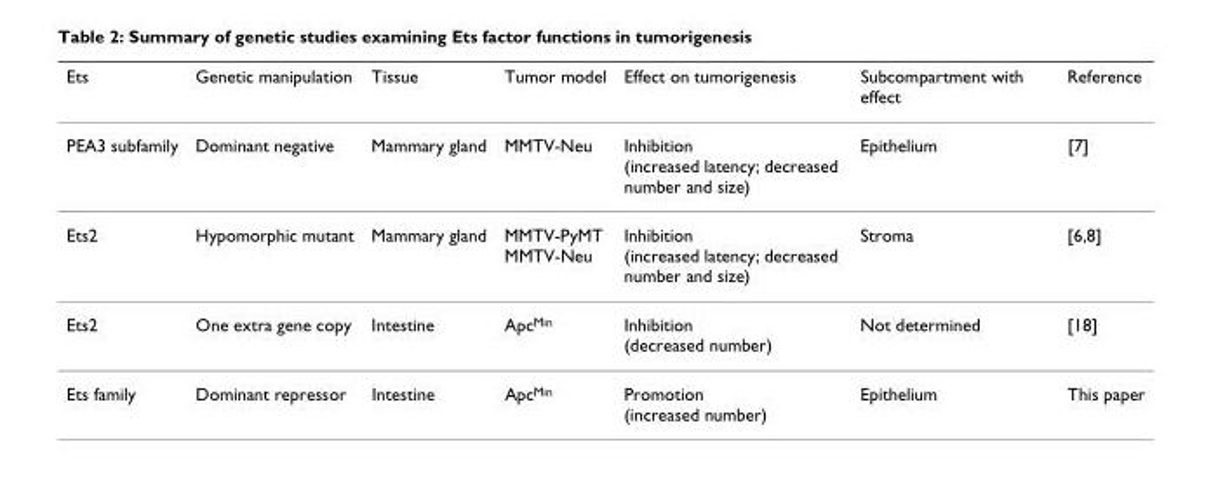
<table><thead><tr><td>Ets</td><td>Genetic manipulation</td><td>Tissue</td><td>Tumor model</td><td>Effect on tumorigenesis</td><td>Subcompartment with effect</td><td>Reference</td></tr></thead><tbody><tr><td>PEA3 subfamily</td><td>Dominant negative</td><td>Mammary gland</td><td>MMTV-Neu</td><td>Inhibition (increased latency; decreased number and size)</td><td>Epithelium</td><td>[7]</td></tr><tr><td>Ets2</td><td>Hypomorphic mutant</td><td>Mammary gland</td><td>MMTV-PyMT MMTV-Neu</td><td>Inhibition (increased latency; decreased number and size)</td><td>Stroma</td><td>[6,8]</td></tr><tr><td>Ets2</td><td>One extra gene copy</td><td>Intestine</td><td>Apc<sup>Min</sup></td><td>Inhibition (decreased number)</td><td>Not determined</td><td>[18]</td></tr><tr><td>Ets family</td><td>Dominant repressor</td><td>Intestine</td><td>Apc<sup>Min</sup></td><td>Promotion (increased number)</td><td>Epithelium</td><td>This paper</td></tr></tbody></table>